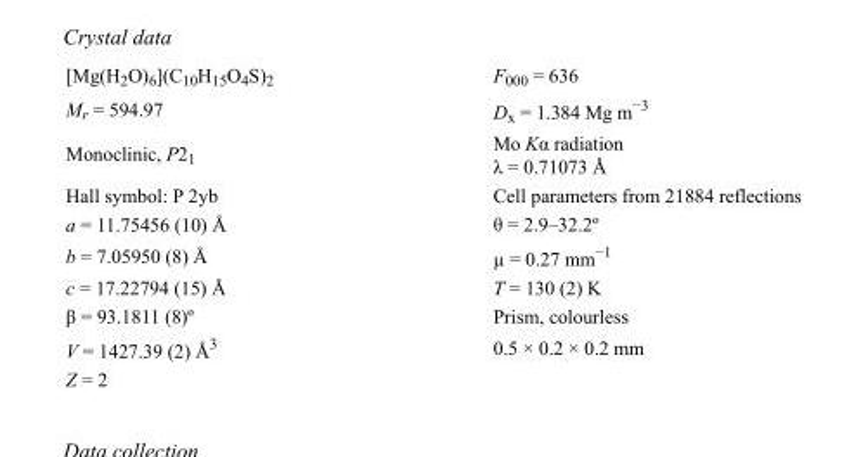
<table><tbody><tr><td>[Mg(H<sub>2</sub>O)<sub>6</sub>](C<sub>10</sub>H<sub>15</sub>O<sub>4</sub>S)<sub>2</sub></td><td>F<sub>000</sub> = 636</td></tr><tr><td>M<sub>r</sub> = 594.97</td><td>D<sub>x</sub> = 1.384 Mg m<sup>−3</sup></td></tr><tr><td>Monoclinic, P2<sub>1</sub></td><td>Mo Kα radiation λ = 0.71073 Å</td></tr><tr><td>Hall symbol: P 2yb</td><td>Cell parameters from 21884 reflections</td></tr><tr><td>a = 11.75456 (10) Å</td><td>θ = 2.9–32.2º</td></tr><tr><td>b = 7.05950 (8) Å</td><td>µ = 0.27 mm<sup>−1</sup></td></tr><tr><td>c = 17.22794 (15) Å</td><td>T = 130 (2) K</td></tr><tr><td>β = 93.1811 (8)º</td><td>Prism, colourless</td></tr><tr><td>V = 1427.39 (2) Å<sup>3</sup></td><td>0.5 × 0.2 × 0.2 mm</td></tr><tr><td>Z = 2</td><td></td></tr></tbody></table>